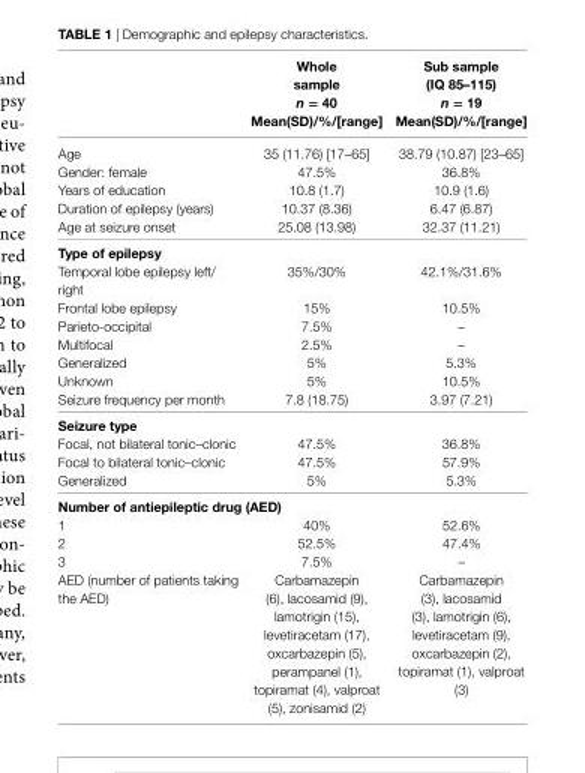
<table><thead><tr><td></td><td>Whole sample n = 40 Mean(sD)/%/[range]</td><td>sub sample (iQ 85–115) n = 19 Mean(sD)/%/[range]</td></tr></thead><tbody><tr><td>Age</td><td>35 (11.76) [17–65]</td><td>38.79 (10.87) [23–65]</td></tr><tr><td>Gender: female</td><td>47.5%</td><td>36.8%</td></tr><tr><td>Years of education</td><td>10.8 (1.7)</td><td>10.9 (1.6)</td></tr><tr><td>Duration of epilepsy (years)</td><td>10.37 (8.36)</td><td>6.47 (6.87)</td></tr><tr><td>Age at seizure onset</td><td>25.08 (13.98)</td><td>32.37 (11.21)</td></tr><tr><td colspan="3">Type of epilepsy</td></tr><tr><td>Temporal lobe epilepsy left/ right</td><td>35%/30%</td><td>42.1%/31.6%</td></tr><tr><td>Frontal lobe epilepsy</td><td>15%</td><td>10.5%</td></tr><tr><td>Parieto-occipital</td><td>7.5%</td><td>–</td></tr><tr><td>Multifocal</td><td>2.5%</td><td>–</td></tr><tr><td>Generalized</td><td>5%</td><td>5.3%</td></tr><tr><td>Unknown</td><td>5%</td><td>10.5%</td></tr><tr><td>Seizure frequency per month</td><td>7.8 (18.75)</td><td>3.97 (7.21)</td></tr><tr><td colspan="3">seizure type</td></tr><tr><td>Focal, not bilateral tonic–clonic</td><td>47.5%</td><td>36.8%</td></tr><tr><td>Focal to bilateral tonic–clonic</td><td>47.5%</td><td>57.9%</td></tr><tr><td>Generalized</td><td>5%</td><td>5.3%</td></tr><tr><td colspan="3">number of antiepileptic drug (aeD)</td></tr><tr><td>1</td><td>40%</td><td>52.6%</td></tr><tr><td>2</td><td>52.5%</td><td>47.4%</td></tr><tr><td>3</td><td>7.5%</td><td>–</td></tr><tr><td>AED (number of patients taking the AED)</td><td>Carbamazepin (6), lacosamid (9), lamotrigin (15), levetiracetam (17), oxcarbazepin (5), perampanel (1), topiramat (4), valproat (5), zonisamid (2)</td><td>Carbamazepin (3), lacosamid (3), lamotrigin (6), levetiracetam (9), oxcarbazepin (2), topiramat (1), valproat (3)</td></tr></tbody></table>